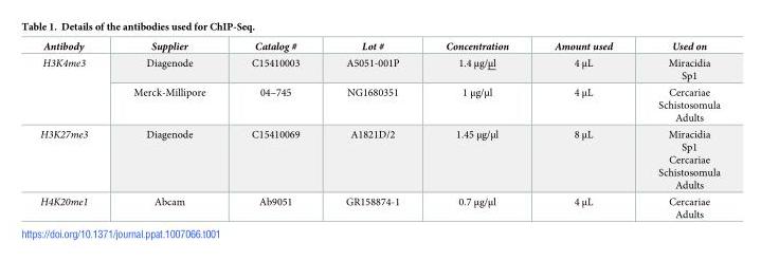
<table><thead><tr><td>Antibody</td><td>Supplier</td><td>Catalog #</td><td>Lot #</td><td>Concentration</td><td>Amount used</td><td>Used on</td></tr></thead><tbody><tr><td rowspan="2">H3K4me3</td><td>Diagenode</td><td>C15410003</td><td>A5051-001P</td><td>1.4 μg/μl</td><td>4 μL</td><td>Miracidia Sp1</td></tr><tr><td>Merck-Millipore</td><td>04–745</td><td>NG1680351</td><td>1 μg/μl</td><td>4 μL</td><td>Cercariae Schistosomula Adults</td></tr><tr><td>H3K27me3</td><td>Diagenode</td><td>C15410069</td><td>A1821D/2</td><td>1.45 μg/μl</td><td>8 μL</td><td>Miracidia Sp1 Cercariae Schistosomula Adults</td></tr><tr><td>H4K20me1</td><td>Abcam</td><td>Ab9051</td><td>GR158874-1</td><td>0.7 μg/μl</td><td>4 μL</td><td>Cercariae Adults</td></tr></tbody></table>